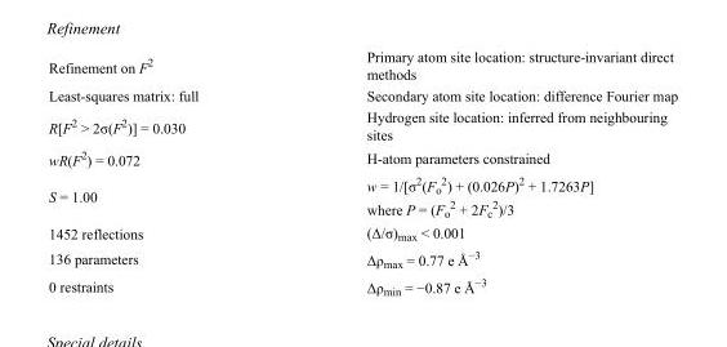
<table><tbody><tr><td>Refinement on F<sup>2</sup></td><td>Primary atom site location: structure-invariant direct methods</td></tr><tr><td>Least-squares matrix: full</td><td>Secondary atom site location: difference Fourier map</td></tr><tr><td>R[F<sup>2</sup> &gt; 2σ(F<sup>2</sup>)] = 0.030</td><td>Hydrogen site location: inferred from neighbouring sites</td></tr><tr><td>wR(F<sup>2</sup>) = 0.072</td><td>H-atom parameters constrained</td></tr><tr><td>S = 1.00</td><td>w = 1/[σ<sup>2</sup>(F<sub>o</sub> <sup>2</sup>) + (0.026P)<sup>2</sup> + 1.7263P] where P = (F<sub>o</sub> <sup>2</sup> + 2F<sub>c</sub> <sup>2</sup>)/3</td></tr><tr><td>1452 reflections</td><td>(Δ/σ)<sub>max</sub> &lt; 0.001</td></tr><tr><td>136 parameters</td><td>Δρ<sub>max</sub> = 0.77 e Å<sup>−3</sup></td></tr><tr><td>0 restraints</td><td>Δρ<sub>min</sub> = −0.87 e Å<sup>−3</sup></td></tr></tbody></table>